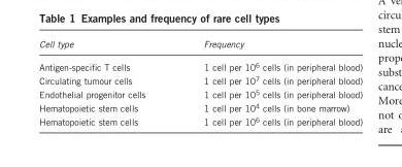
<table><thead><tr><td>Cell type</td><td>Frequency</td></tr></thead><tbody><tr><td>Antigen-specific T cells</td><td>1 cell per 10<sup>6</sup> cells (in peripheral blood)</td></tr><tr><td>Circulating tumour cells</td><td>1 cell per 10<sup>7</sup> cells (in peripheral blood)</td></tr><tr><td>Endothelial progenitor cells</td><td>1 cell per 10<sup>5</sup> cells (in peripheral blood)</td></tr><tr><td>Hematopoietic stem cells</td><td>1 cell per 10<sup>4</sup> cells (in bone marrow)</td></tr><tr><td>Hematopoietic stem cells</td><td>1 cell per 10<sup>6</sup> cells (in peripheral blood)</td></tr></tbody></table>